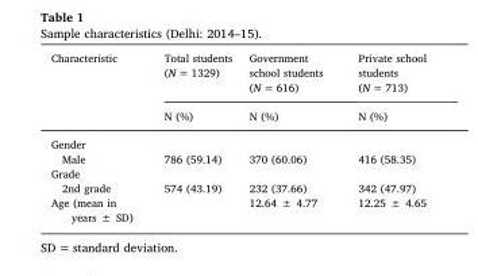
<table><thead><tr><td rowspan="2">Characteristic</td><td rowspan="2">Total students (N = 1329) N (%)</td><td rowspan="2">Government school students (N = 616) N (%)</td><td rowspan="2">Private school students (N = 713) N (%)</td></tr><tr></tr></thead><tbody><tr><td colspan="4">Gender</td></tr><tr><td>Male</td><td>786 (59.14)</td><td>370 (60.06)</td><td>416 (58.35)</td></tr><tr><td colspan="4">Grade</td></tr><tr><td>2nd grade</td><td>574 (43.19)</td><td>232 (37.66)</td><td>342 (47.97)</td></tr><tr><td>Age (mean in years ± SD)</td><td></td><td>12.64 ± 4.77</td><td>12.25 ± 4.65</td></tr></tbody></table>